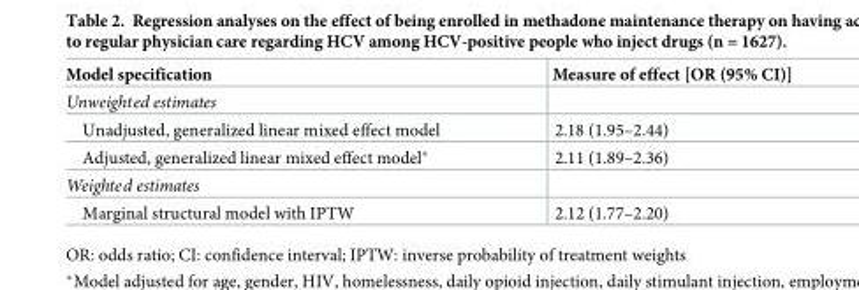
<table><thead><tr><td>Model specification</td><td>Measure of effect [OR (95% CI)]</td></tr></thead><tbody><tr><td colspan="2">Unweighted estimates</td></tr><tr><td>Unadjusted, generalized linear mixed effect model</td><td>2.18 (1.95–2.44)</td></tr><tr><td>Adjusted, generalized linear mixed effect model*</td><td>2.11 (1.89–2.36)</td></tr><tr><td colspan="2">Weighted estimates</td></tr><tr><td>Marginal structural model with IPTW</td><td>2.12 (1.77–2.20)</td></tr></tbody></table>